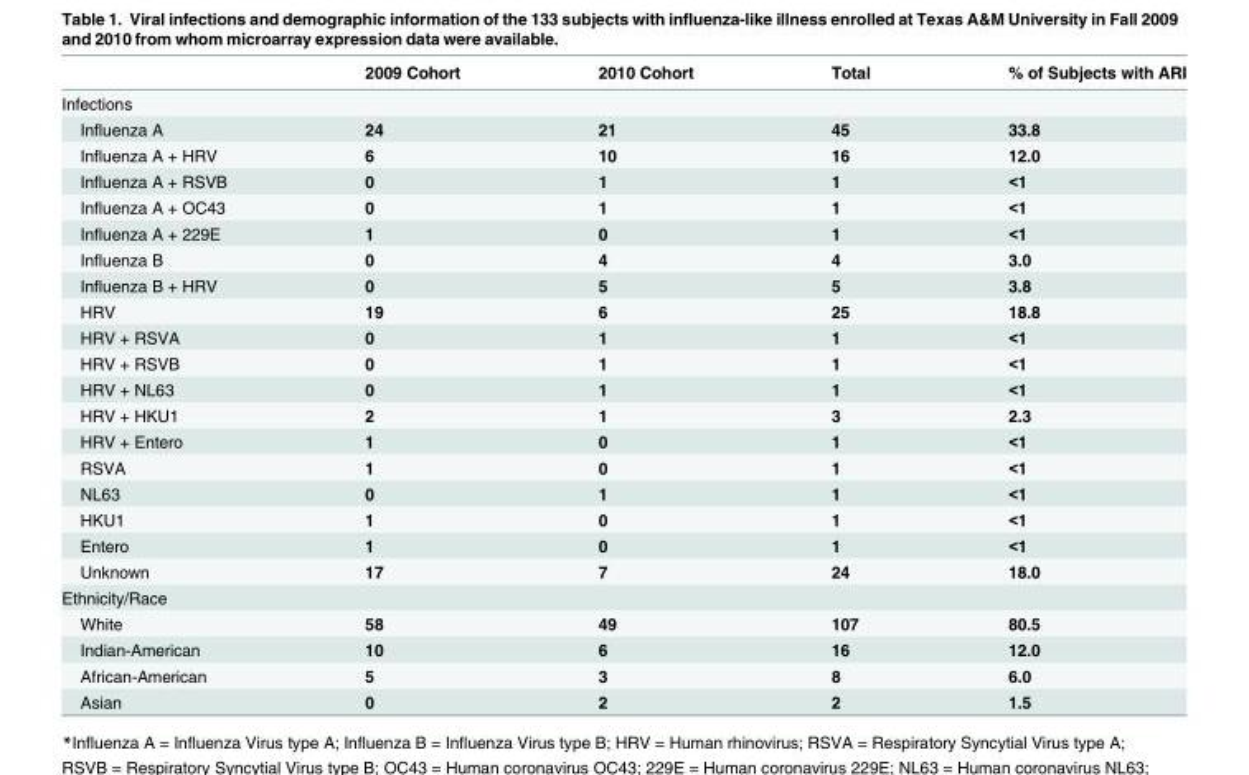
<table><thead><tr><td></td><td>2009 Cohort</td><td>2010 Cohort</td><td>Total</td><td>% of Subjects with ARI</td></tr></thead><tbody><tr><td colspan="5">Infections</td></tr><tr><td>Influenza A</td><td>24</td><td>21</td><td>45</td><td>33.8</td></tr><tr><td>Influenza A + HRV</td><td>6</td><td>10</td><td>16</td><td>12.0</td></tr><tr><td>Influenza A + RSVB</td><td>0</td><td>1</td><td>1</td><td>&lt;1</td></tr><tr><td>Influenza A + OC43</td><td>0</td><td>1</td><td>1</td><td>&lt;1</td></tr><tr><td>Influenza A + 229E</td><td>1</td><td>0</td><td>1</td><td>&lt;1</td></tr><tr><td>Influenza B</td><td>0</td><td>4</td><td>4</td><td>3.0</td></tr><tr><td>Influenza B + HRV</td><td>0</td><td>5</td><td>5</td><td>3.8</td></tr><tr><td>HRV</td><td>19</td><td>6</td><td>25</td><td>18.8</td></tr><tr><td>HRV + RSVA</td><td>0</td><td>1</td><td>1</td><td>&lt;1</td></tr><tr><td>HRV + RSVB</td><td>0</td><td>1</td><td>1</td><td>&lt;1</td></tr><tr><td>HRV + NL63</td><td>0</td><td>1</td><td>1</td><td>&lt;1</td></tr><tr><td>HRV + HKU1</td><td>2</td><td>1</td><td>3</td><td>2.3</td></tr><tr><td>HRV + Entero</td><td>1</td><td>0</td><td>1</td><td>&lt;1</td></tr><tr><td>RSVA</td><td>1</td><td>0</td><td>1</td><td>&lt;1</td></tr><tr><td>NL63</td><td>0</td><td>1</td><td>1</td><td>&lt;1</td></tr><tr><td>HKU1</td><td>1</td><td>0</td><td>1</td><td>&lt;1</td></tr><tr><td>Entero</td><td>1</td><td>0</td><td>1</td><td>&lt;1</td></tr><tr><td>Unknown</td><td>17</td><td>7</td><td>24</td><td>18.0</td></tr><tr><td colspan="5">Ethnicity/Race</td></tr><tr><td>White</td><td>58</td><td>49</td><td>107</td><td>80.5</td></tr><tr><td>Indian-American</td><td>10</td><td>6</td><td>16</td><td>12.0</td></tr><tr><td>African-American</td><td>5</td><td>3</td><td>8</td><td>6.0</td></tr><tr><td>Asian</td><td>0</td><td>2</td><td>2</td><td>1.5</td></tr></tbody></table>